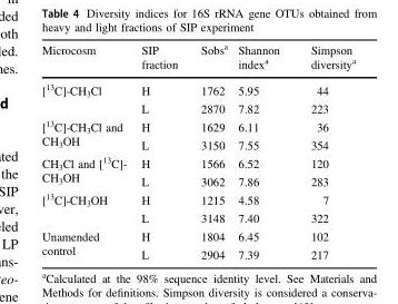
<table><thead><tr><td>Microcosm</td><td>SIP fraction</td><td>Sobs<sup>a</sup></td><td>Shannon index<sup>a</sup></td><td>Simpson diversity<sup>a</sup></td></tr></thead><tbody><tr><td rowspan="2">[<sup>13</sup>C]-CH<sub>3</sub>Cl</td><td>H</td><td>1762</td><td>5.95</td><td>44</td></tr><tr><td>L</td><td>2870</td><td>7.82</td><td>223</td></tr><tr><td rowspan="2">[<sup>13</sup>C]-CH<sub>3</sub>Cl and CH<sub>3</sub>OH</td><td>H</td><td>1629</td><td>6.11</td><td>36</td></tr><tr><td>L</td><td>3150</td><td>7.55</td><td>354</td></tr><tr><td rowspan="2">CH<sub>3</sub>Cl and [<sup>13</sup>C]- CH<sub>3</sub>OH</td><td>H</td><td>1566</td><td>6.52</td><td>120</td></tr><tr><td>L</td><td>3062</td><td>7.86</td><td>283</td></tr><tr><td rowspan="2">[<sup>13</sup>C]-CH<sub>3</sub>OH</td><td>H</td><td>1215</td><td>4.58</td><td>7</td></tr><tr><td>L</td><td>3148</td><td>7.40</td><td>322</td></tr><tr><td rowspan="2">Unamended control</td><td>H</td><td>1804</td><td>6.45</td><td>102</td></tr><tr><td>L</td><td>2904</td><td>7.39</td><td>217</td></tr></tbody></table>